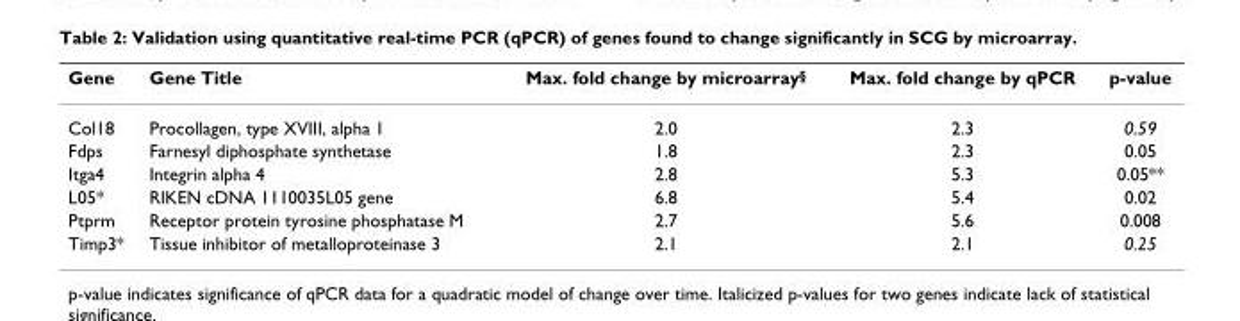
<table><thead><tr><td>Gene</td><td>Gene Title</td><td>Max. fold change by microarray<sup>§</sup></td><td>Max. fold change by qPCR</td><td>p-value</td></tr></thead><tbody><tr><td>Col18</td><td>Procollagen, type XVIII, alpha 1</td><td>2.0</td><td>2.3</td><td>0.59</td></tr><tr><td>Fdps</td><td>Farnesyl diphosphate synthetase</td><td>1.8</td><td>2.3</td><td>0.05</td></tr><tr><td>Itga4</td><td>Integrin alpha 4</td><td>2.8</td><td>5.3</td><td>0.05**</td></tr><tr><td>L05*</td><td>RIKEN cDNA 1110035L05 gene</td><td>6.8</td><td>5.4</td><td>0.02</td></tr><tr><td>Ptprm</td><td>Receptor protein tyrosine phosphatase M</td><td>2.7</td><td>5.6</td><td>0.008</td></tr><tr><td>Timp3*</td><td>Tissue inhibitor of metalloproteinase 3</td><td>2.1</td><td>2.1</td><td>0.25</td></tr></tbody></table>